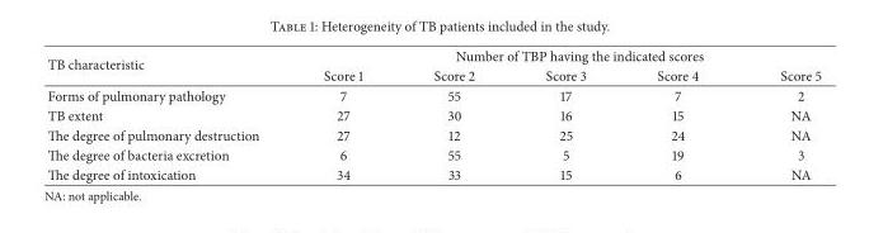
<table><thead><tr><td rowspan="2">TB characteristic</td><td colspan="5">Number of TBP having the indicated scores</td></tr><tr><td>Score 1</td><td>Score 2</td><td>Score 3</td><td>Score 4</td><td>Score 5</td></tr></thead><tbody><tr><td>Forms of pulmonary pathology</td><td>7</td><td>55</td><td>17</td><td>7</td><td>2</td></tr><tr><td>TB extent</td><td>27</td><td>30</td><td>16</td><td>15</td><td>NA</td></tr><tr><td>The degree of pulmonary destruction</td><td>27</td><td>12</td><td>25</td><td>24</td><td>NA</td></tr><tr><td>The degree of bacteria excretion</td><td>6</td><td>55</td><td>5</td><td>19</td><td>3</td></tr><tr><td>The degree of intoxication</td><td>34</td><td>33</td><td>15</td><td>6</td><td>NA</td></tr></tbody></table>